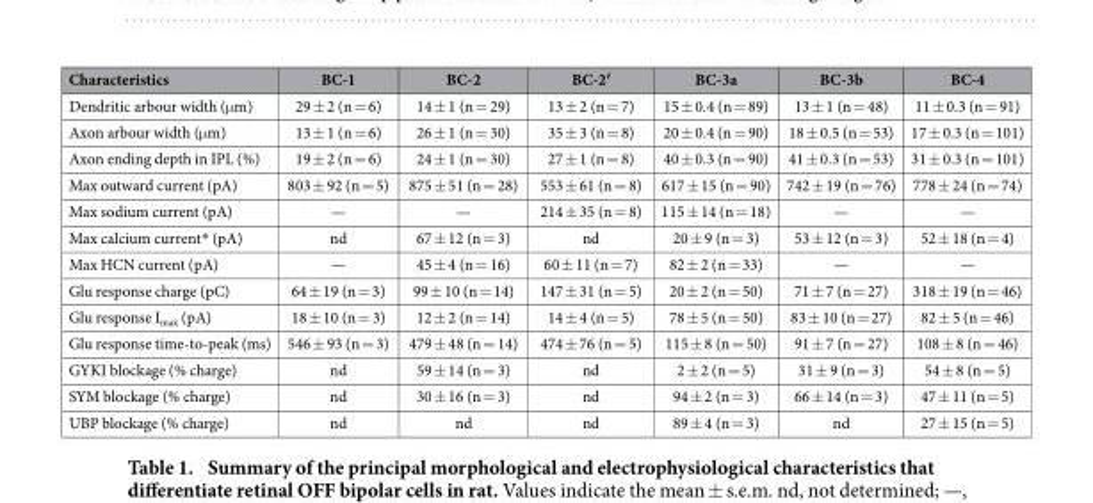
<table><thead><tr><td>Characteristics</td><td>BC-1</td><td>BC-2</td><td>BC-2′</td><td>BC-3a</td><td>BC-3b</td><td>BC-4</td></tr></thead><tbody><tr><td>Dendritic arbour width (μ m)</td><td>29 ± 2 (n = 6)</td><td>14 ± 1 (n = 29)</td><td>13 ± 2 (n = 7)</td><td>15 ± 0.4 (n = 89)</td><td>13 ± 1 (n = 48)</td><td>11 ± 0.3 (n = 91)</td></tr><tr><td>Axon arbour width (μ m)</td><td>13 ± 1 (n = 6)</td><td>26 ± 1 (n = 30)</td><td>35 ± 3 (n = 8)</td><td>20 ± 0.4 (n = 90)</td><td>18 ± 0.5 (n = 53)</td><td>17 ± 0.3 (n = 101)</td></tr><tr><td>Axon ending depth in IPL (%)</td><td>19 ± 2 (n = 6)</td><td>24 ± 1 (n = 30)</td><td>27 ± 1 (n = 8)</td><td>40 ± 0.3 (n = 90)</td><td>41 ± 0.3 (n = 53)</td><td>31 ± 0.3 (n = 101)</td></tr><tr><td>Max outward current (pA)</td><td>803 ± 92 (n = 5)</td><td>875 ± 51 (n = 28)</td><td>553 ± 61 (n = 8)</td><td>617 ± 15 (n = 90)</td><td>742 ± 19 (n = 76)</td><td>778 ± 24 (n = 74)</td></tr><tr><td>Max sodium current (pA)</td><td>—</td><td>—</td><td>214 ± 35 (n = 8)</td><td>115 ± 14 (n = 18)</td><td>—</td><td>—</td></tr><tr><td>Max calcium current* (pA)</td><td>nd</td><td>67 ± 12 (n = 3)</td><td>nd</td><td>20 ± 9 (n = 3)</td><td>53 ± 12 (n = 3)</td><td>52 ± 18 (n = 4)</td></tr><tr><td>Max HCN current (pA)</td><td>—</td><td>45 ± 4 (n = 16)</td><td>60 ± 11 (n = 7)</td><td>82 ± 2 (n = 33)</td><td>—</td><td>—</td></tr><tr><td>Glu response charge (pC)</td><td>64 ± 19 (n = 3)</td><td>99 ± 10 (n = 14)</td><td>147 ± 31 (n = 5)</td><td>20 ± 2 (n = 50)</td><td>71 ± 7 (n = 27)</td><td>318 ± 19 (n = 46)</td></tr><tr><td>Glu response I<sub>max</sub> (pA)</td><td>18 ± 10 (n = 3)</td><td>12 ± 2 (n = 14)</td><td>14 ± 4 (n = 5)</td><td>78 ± 5 (n = 50)</td><td>83 ± 10 (n = 27)</td><td>82 ± 5 (n = 46)</td></tr><tr><td>Glu response time-to-peak (ms)</td><td>546 ± 93 (n = 3)</td><td>479 ± 48 (n = 14)</td><td>474 ± 76 (n = 5)</td><td>115 ± 8 (n = 50)</td><td>91 ± 7 (n = 27)</td><td>108 ± 8 (n = 46)</td></tr><tr><td>GYKI blockage (% charge)</td><td>nd</td><td>59 ± 14 (n = 3)</td><td>nd</td><td>2 ± 2 (n = 5)</td><td>31 ± 9 (n = 3)</td><td>54 ± 8 (n = 5)</td></tr><tr><td>SYM blockage (% charge)</td><td>nd</td><td>30 ± 16 (n = 3)</td><td>nd</td><td>94 ± 2 (n = 3)</td><td>66 ± 14 (n = 3)</td><td>47 ± 11 (n = 5)</td></tr><tr><td>UBP blockage (% charge)</td><td>nd</td><td>nd</td><td>nd</td><td>89 ± 4 (n = 3)</td><td>nd</td><td>27 ± 15 (n = 5)</td></tr></tbody></table>